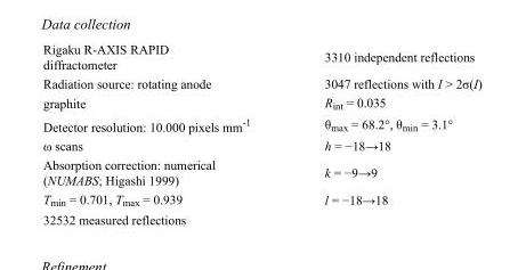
<table><tbody><tr><td>Rigaku R-AXIS RAPID diffractometer</td><td>3310 independent reflections</td></tr><tr><td>Radiation source: rotating anode</td><td>3047 reflections with I &gt; 2σ(I)</td></tr><tr><td>graphite</td><td>R<sub>int</sub> = 0.035</td></tr><tr><td>Detector resolution: 10.000 pixels mm<sup>-1</sup></td><td>θ<sub>max</sub> = 68.2°, θ<sub>min</sub> = 3.1°</td></tr><tr><td>ω scans</td><td>h = −18→18</td></tr><tr><td>Absorption correction: numerical (NUMABS; Higashi 1999)</td><td>k = −9→9</td></tr><tr><td>T<sub>min</sub> = 0.701, T<sub>max</sub> = 0.939</td><td>l = −18→18</td></tr><tr><td>32532 measured reflections</td><td></td></tr></tbody></table>